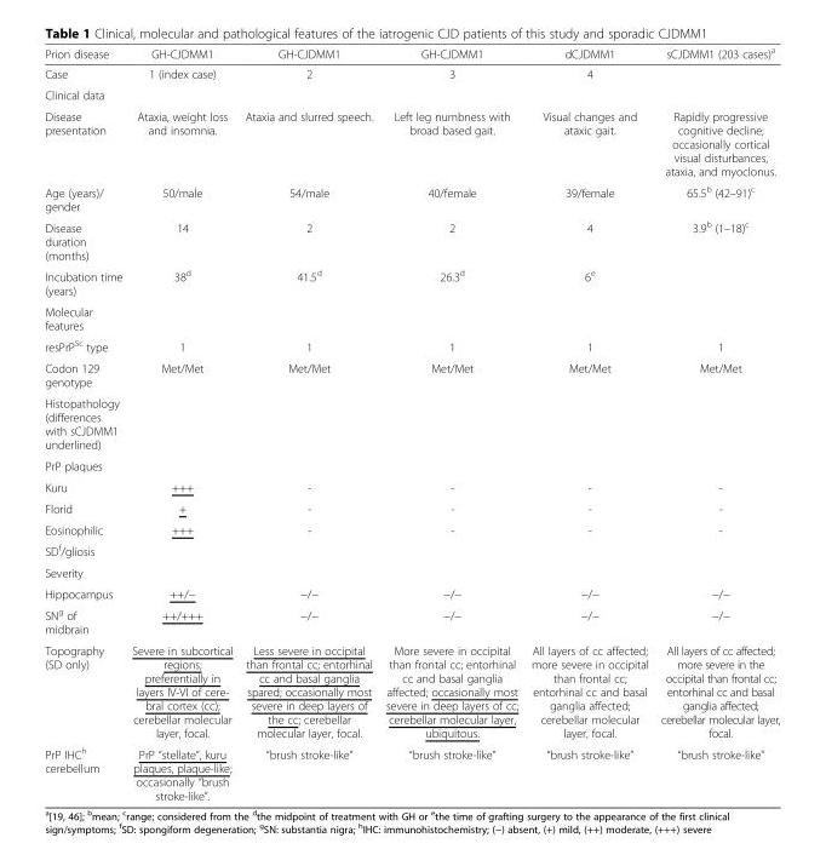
<table><thead><tr><td>Prion disease</td><td>GH-CJDMM1</td><td>GH-CJDMM1</td><td>GH-CJDMM1</td><td>dCJDMM1</td><td>sCJDMM1 (203 cases)<sup>a</sup></td></tr></thead><tbody><tr><td>Case</td><td>1 (index case)</td><td>2</td><td>3</td><td>4</td><td></td></tr><tr><td colspan="6">Clinical data</td></tr><tr><td>Disease presentation</td><td>Ataxia, weight loss and insomnia.</td><td>Ataxia and slurred speech.</td><td>Left leg numbness with broad based gait.</td><td>Visual changes and ataxic gait.</td><td>Rapidly progressive cognitive decline; occasionally cortical visual disturbances, ataxia, and myoclonus.</td></tr><tr><td>Age (years)/ gender</td><td>50/male</td><td>54/male</td><td>40/female</td><td>39/female</td><td>65.5<sup>b</sup> (42–91)<sup>c</sup></td></tr><tr><td>Disease duration (months)</td><td>14</td><td>2</td><td>2</td><td>4</td><td>3.9<sup>b</sup> (1–18)<sup>c</sup></td></tr><tr><td>Incubation time (years)</td><td>38<sup>d</sup></td><td>41.5<sup>d</sup></td><td>26.3<sup>d</sup></td><td>6<sup>e</sup></td><td></td></tr><tr><td colspan="6">Molecular features</td></tr><tr><td>resPrP<sup>Sc</sup> type</td><td>1</td><td>1</td><td>1</td><td>1</td><td>1</td></tr><tr><td>Codon 129 genotype</td><td>Met/Met</td><td>Met/Met</td><td>Met/Met</td><td>Met/Met</td><td>Met/Met</td></tr><tr><td colspan="6">Histopathology (differences with sCJDMM1 underlined)</td></tr><tr><td colspan="6">PrP plaques</td></tr><tr><td>Kuru</td><td>+++</td><td>-</td><td>-</td><td>-</td><td>-</td></tr><tr><td>Florid</td><td>+</td><td>-</td><td>-</td><td>-</td><td>-</td></tr><tr><td>Eosinophilic</td><td>+++</td><td>-</td><td>-</td><td>-</td><td>-</td></tr><tr><td colspan="6">SD<sup>f</sup>/gliosis</td></tr><tr><td colspan="6">Severity</td></tr><tr><td>Hippocampus</td><td>++/−</td><td>−/−</td><td>−/−</td><td>−/−</td><td>−/−</td></tr><tr><td>SN<sup>g</sup> of midbrain</td><td>++/+++</td><td>−/−</td><td>−/−</td><td>−/−</td><td>−/−</td></tr><tr><td>Topography (SD only)</td><td>Severe in subcortical regions; preferentially in layers IV-VI of cere- bral cortex (cc); cerebellar molecular layer, focal.</td><td>Less severe in occipital than frontal cc; entorhinal cc and basal ganglia spared; occasionally most severe in deep layers of the cc; cerebellar molecular layer, focal.</td><td>More severe in occipital than frontal cc; entorhinal cc and basal ganglia affected; occasionally most severe in deep layers of cc; cerebellar molecular layer, ubiquitous.</td><td>All layers of cc affected; more severe in occipital than frontal cc; entorhinal cc and basal ganglia affected; cerebellar molecular layer, focal.</td><td>All layers of cc affected; more severe in the occipital than frontal cc; entorhinal cc and basal ganglia affected; cerebellar molecular layer, focal.</td></tr><tr><td>PrP IHC<sup>h</sup> cerebellum</td><td>PrP “stellate”, kuru plaques, plaque-like; occasionally “brush stroke-like”.</td><td>“brush stroke-like”</td><td>“brush stroke-like”</td><td>“brush stroke-like”</td><td>“brush stroke-like”</td></tr></tbody></table>